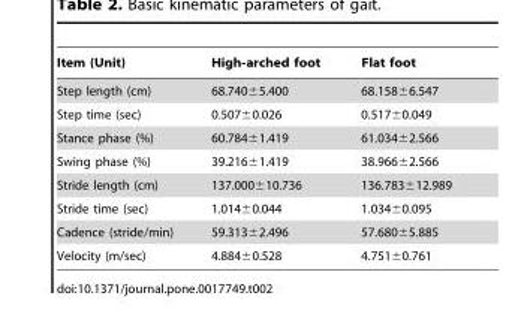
<table><thead><tr><td>Item (Unit)</td><td>High-arched foot</td><td>Flat foot</td></tr></thead><tbody><tr><td>Step length (cm)</td><td>68.740±5.400</td><td>68.158±6.547</td></tr><tr><td>Step time (sec)</td><td>0.507±0.026</td><td>0.517±0.049</td></tr><tr><td>Stance phase (%)</td><td>60.784±1.419</td><td>61.034±2.566</td></tr><tr><td>Swing phase (%)</td><td>39.216±1.419</td><td>38.966±2.566</td></tr><tr><td>Stride length (cm)</td><td>137.000±10.736</td><td>136.783±12.989</td></tr><tr><td>Stride time (sec)</td><td>1.014±0.044</td><td>1.034±0.095</td></tr><tr><td>Cadence (stride/min)</td><td>59.313±2.496</td><td>57.680±5.885</td></tr><tr><td>Velocity (m/sec)</td><td>4.884±0.528</td><td>4.751±0.761</td></tr></tbody></table>